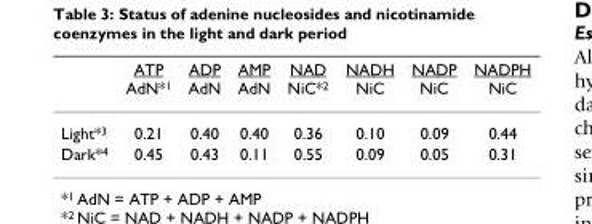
<table><thead><tr><td></td><td>ATP AdN*<sup>1</sup></td><td>ADP AdN</td><td>AMP AdN</td><td>NAD NiC*<sup>2</sup></td><td>NADH NiC</td><td>NADP NiC</td><td>NADPH NiC</td></tr></thead><tbody><tr><td>Light*<sup>3</sup></td><td>0.21</td><td>0.40</td><td>0.40</td><td>0.36</td><td>0.10</td><td>0.09</td><td>0.44</td></tr><tr><td>Dark*<sup>4</sup></td><td>0.45</td><td>0.43</td><td>0.11</td><td>0.55</td><td>0.09</td><td>0.05</td><td>0.31</td></tr></tbody></table>